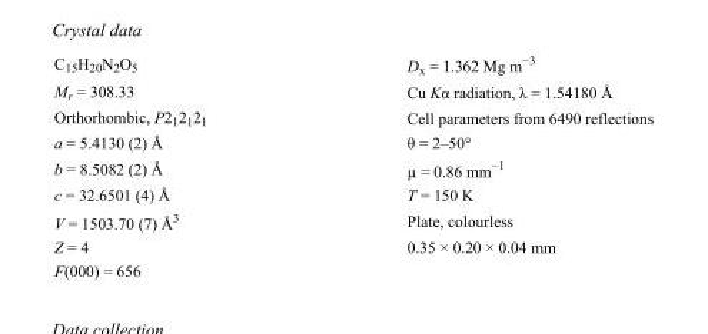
<table><tbody><tr><td>C<sub>15</sub>H<sub>20</sub>N<sub>2</sub>O<sub>5</sub></td><td>D<sub>x</sub> = 1.362 Mg m<sup>−3</sup></td></tr><tr><td>M<sub>r</sub> = 308.33</td><td>Cu Kα radiation, λ = 1.54180 Å</td></tr><tr><td>Orthorhombic, P2<sub>1</sub>2<sub>1</sub>2<sub>1</sub></td><td>Cell parameters from 6490 reflections</td></tr><tr><td>a = 5.4130 (2) Å</td><td>θ = 2–50°</td></tr><tr><td>b = 8.5082 (2) Å</td><td>µ = 0.86 mm<sup>−1</sup></td></tr><tr><td>c = 32.6501 (4) Å</td><td>T = 150 K</td></tr><tr><td>V = 1503.70 (7) Å<sup>3</sup></td><td>Plate, colourless</td></tr><tr><td>Z = 4</td><td>0.35 × 0.20 × 0.04 mm</td></tr><tr><td>F(000) = 656</td><td></td></tr></tbody></table>